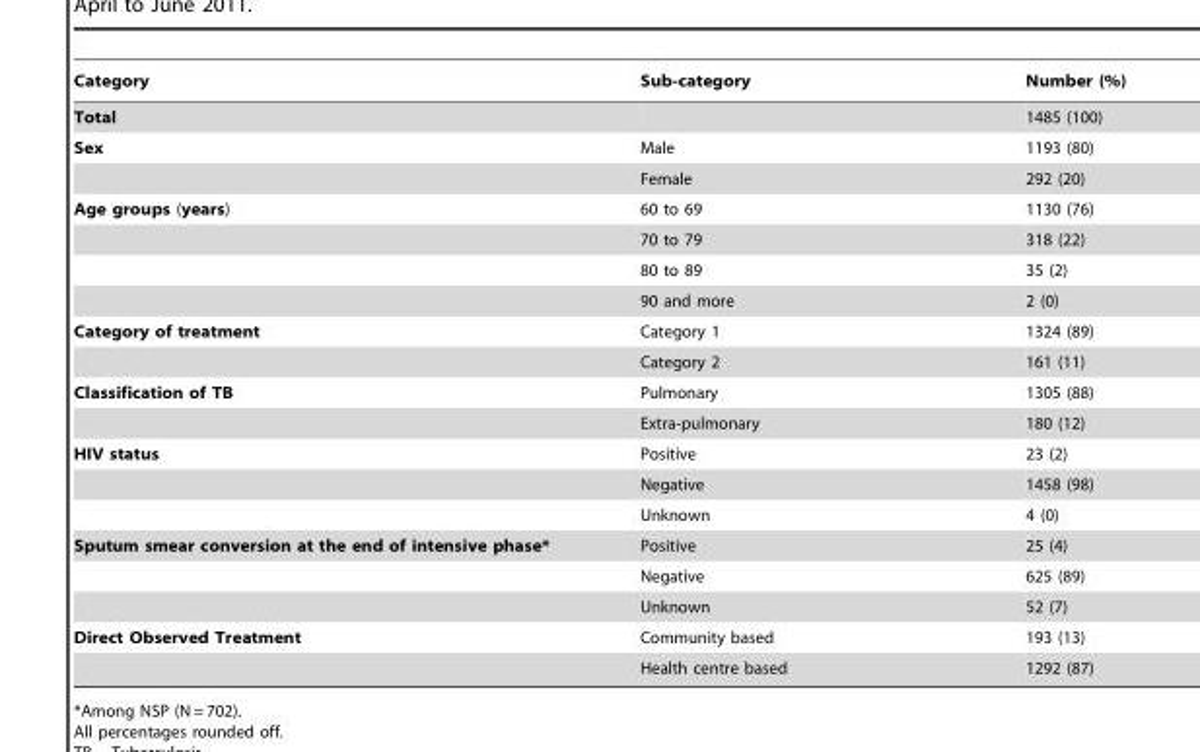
<table><thead><tr><td>Category</td><td>Sub-category</td><td>Number (%)</td></tr></thead><tbody><tr><td>Total</td><td></td><td>1485 (100)</td></tr><tr><td rowspan="2">Sex</td><td>Male</td><td>1193 (80)</td></tr><tr><td>Female</td><td>292 (20)</td></tr><tr><td rowspan="4">Age groups (years)</td><td>60 to 69</td><td>1130 (76)</td></tr><tr><td>70 to 79</td><td>318 (22)</td></tr><tr><td>80 to 89</td><td>35 (2)</td></tr><tr><td>90 and more</td><td>2 (0)</td></tr><tr><td rowspan="2">Category of treatment</td><td>Category 1</td><td>1324 (89)</td></tr><tr><td>Category 2</td><td>161 (11)</td></tr><tr><td rowspan="2">Classification of TB</td><td>Pulmonary</td><td>1305 (88)</td></tr><tr><td>Extra-pulmonary</td><td>180 (12)</td></tr><tr><td rowspan="3">HIV status</td><td>Positive</td><td>23 (2)</td></tr><tr><td>Negative</td><td>1458 (98)</td></tr><tr><td>Unknown</td><td>4 (0)</td></tr><tr><td rowspan="3">Sputum smear conversion at the end of intensive phase*</td><td>Positive</td><td>25 (4)</td></tr><tr><td>Negative</td><td>625 (89)</td></tr><tr><td>Unknown</td><td>52 (7)</td></tr><tr><td rowspan="2">Direct Observed Treatment</td><td>Community based</td><td>193 (13)</td></tr><tr><td>Health centre based</td><td>1292 (87)</td></tr></tbody></table>